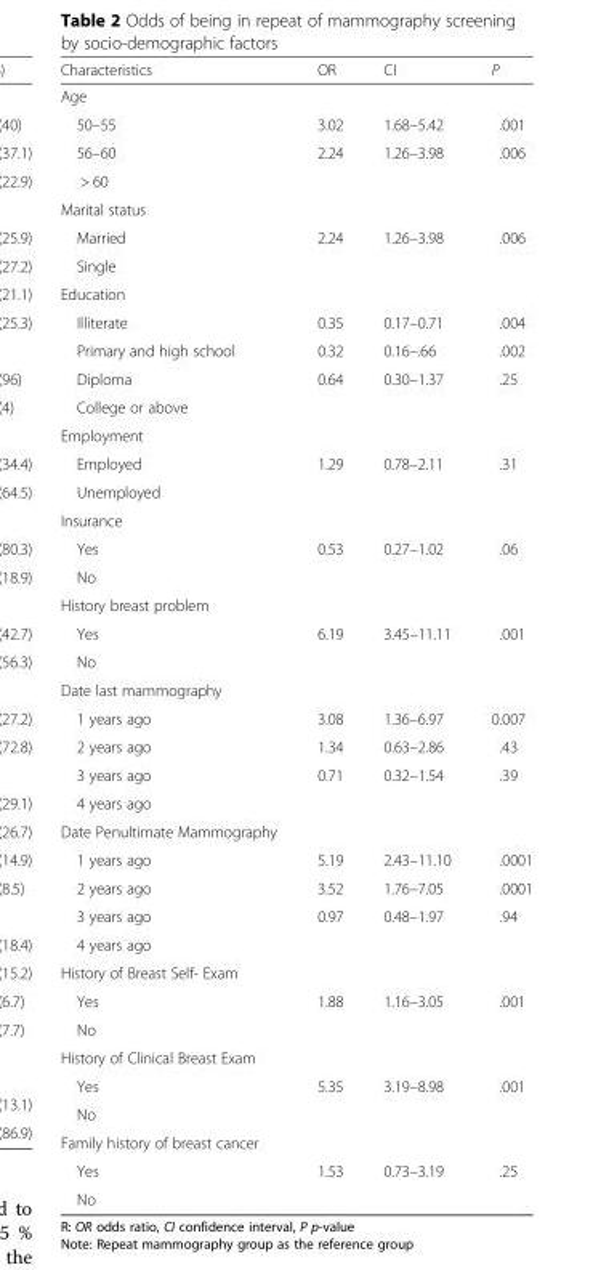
<table><thead><tr><td>Characteristics</td><td>OR</td><td>CI</td><td>P</td></tr></thead><tbody><tr><td colspan="4">Age</td></tr><tr><td>50–55</td><td>3.02</td><td>1.68–5.42</td><td>.001</td></tr><tr><td>56–60</td><td>2.24</td><td>1.26–3.98</td><td>.006</td></tr><tr><td colspan="4">&gt; 60</td></tr><tr><td colspan="4">Marital status</td></tr><tr><td>Married</td><td>2.24</td><td>1.26–3.98</td><td>.006</td></tr><tr><td colspan="4">Single</td></tr><tr><td colspan="4">Education</td></tr><tr><td>Illiterate</td><td>0.35</td><td>0.17–0.71</td><td>.004</td></tr><tr><td>Primary and high school</td><td>0.32</td><td>0.16–.66</td><td>.002</td></tr><tr><td>Diploma</td><td>0.64</td><td>0.30–1.37</td><td>.25</td></tr><tr><td colspan="4">College or above</td></tr><tr><td colspan="4">Employment</td></tr><tr><td>Employed</td><td>1.29</td><td>0.78–2.11</td><td>.31</td></tr><tr><td colspan="4">Unemployed</td></tr><tr><td colspan="4">Insurance</td></tr><tr><td>Yes</td><td>0.53</td><td>0.27–1.02</td><td>.06</td></tr><tr><td colspan="4">No</td></tr><tr><td colspan="4">History breast problem</td></tr><tr><td>Yes</td><td>6.19</td><td>3.45–11.11</td><td>.001</td></tr><tr><td colspan="4">No</td></tr><tr><td colspan="4">Date last mammography</td></tr><tr><td>1 years ago</td><td>3.08</td><td>1.36–6.97</td><td>0.007</td></tr><tr><td>2 years ago</td><td>1.34</td><td>0.63–2.86</td><td>.43</td></tr><tr><td>3 years ago</td><td>0.71</td><td>0.32–1.54</td><td>.39</td></tr><tr><td colspan="4">4 years ago</td></tr><tr><td colspan="4">Date Penultimate Mammography</td></tr><tr><td>1 years ago</td><td>5.19</td><td>2.43–11.10</td><td>.0001</td></tr><tr><td>2 years ago</td><td>3.52</td><td>1.76–7.05</td><td>.0001</td></tr><tr><td>3 years ago</td><td>0.97</td><td>0.48–1.97</td><td>.94</td></tr><tr><td colspan="4">4 years ago</td></tr><tr><td colspan="4">History of Breast Self- Exam</td></tr><tr><td>Yes</td><td>1.88</td><td>1.16–3.05</td><td>.001</td></tr><tr><td colspan="4">No</td></tr><tr><td colspan="4">History of Clinical Breast Exam</td></tr><tr><td>Yes</td><td>5.35</td><td>3.19–8.98</td><td>.001</td></tr><tr><td colspan="4">No</td></tr><tr><td colspan="4">Family history of breast cancer</td></tr><tr><td>Yes</td><td>1.53</td><td>0.73–3.19</td><td>.25</td></tr><tr><td>No</td><td></td><td></td><td></td></tr></tbody></table>